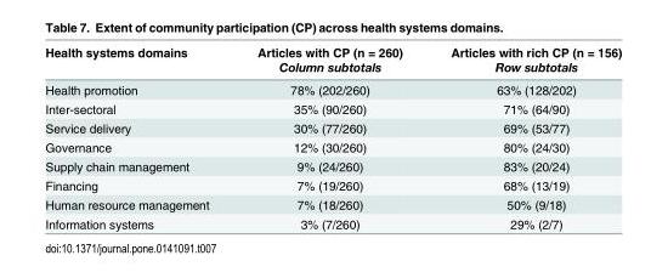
<table><thead><tr><td rowspan="2">Health systems domains</td><td rowspan="2">Articles with CP (n = 260) Column subtotals</td><td rowspan="2">Articles with rich CP (n = 156) Row subtotals</td></tr><tr></tr></thead><tbody><tr><td>Health promotion</td><td>78% (202/260)</td><td>63% (128/202)</td></tr><tr><td>Inter-sectoral</td><td>35% (90/260)</td><td>71% (64/90)</td></tr><tr><td>Service delivery</td><td>30% (77/260)</td><td>69% (53/77)</td></tr><tr><td>Governance</td><td>12% (30/260)</td><td>80% (24/30)</td></tr><tr><td>Supply chain management</td><td>9% (24/260)</td><td>83% (20/24)</td></tr><tr><td>Financing</td><td>7% (19/260)</td><td>68% (13/19)</td></tr><tr><td>Human resource management</td><td>7% (18/260)</td><td>50% (9/18)</td></tr><tr><td>Information systems</td><td>3% (7/260)</td><td>29% (2/7)</td></tr></tbody></table>